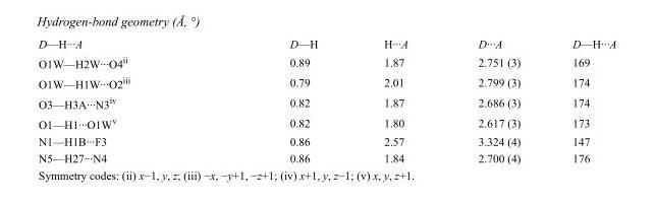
<table><tbody><tr><td>D—H···A</td><td>D—H</td><td>H···A</td><td>D···A</td><td>D—H···A</td></tr><tr><td>O1W—H2W···O4<sup>ii</sup></td><td>0.89</td><td>1.87</td><td>2.751 (3)</td><td>169</td></tr><tr><td>O1W—H1W···O2<sup>iii</sup></td><td>0.79</td><td>2.01</td><td>2.799 (3)</td><td>174</td></tr><tr><td>O3—H3A···N3<sup>iv</sup></td><td>0.82</td><td>1.87</td><td>2.686 (3)</td><td>174</td></tr><tr><td>O1—H1···O1W<sup>v</sup></td><td>0.82</td><td>1.80</td><td>2.617 (3)</td><td>173</td></tr><tr><td>N1—H1B···F3</td><td>0.86</td><td>2.57</td><td>3.324 (4)</td><td>147</td></tr><tr><td>N5—H27···N4</td><td>0.86</td><td>1.84</td><td>2.700 (4)</td><td>176</td></tr></tbody></table>